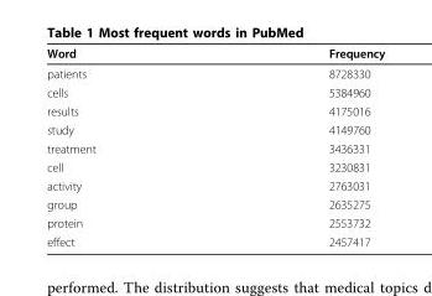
<table><thead><tr><td>Word</td><td>Frequency</td></tr></thead><tbody><tr><td>patients</td><td>8728330</td></tr><tr><td>cells</td><td>5384960</td></tr><tr><td>results</td><td>4175016</td></tr><tr><td>study</td><td>4149760</td></tr><tr><td>treatment</td><td>3436331</td></tr><tr><td>cell</td><td>3230831</td></tr><tr><td>activity</td><td>2763031</td></tr><tr><td>group</td><td>2635275</td></tr><tr><td>protein</td><td>2553732</td></tr><tr><td>effect</td><td>2457417</td></tr></tbody></table>